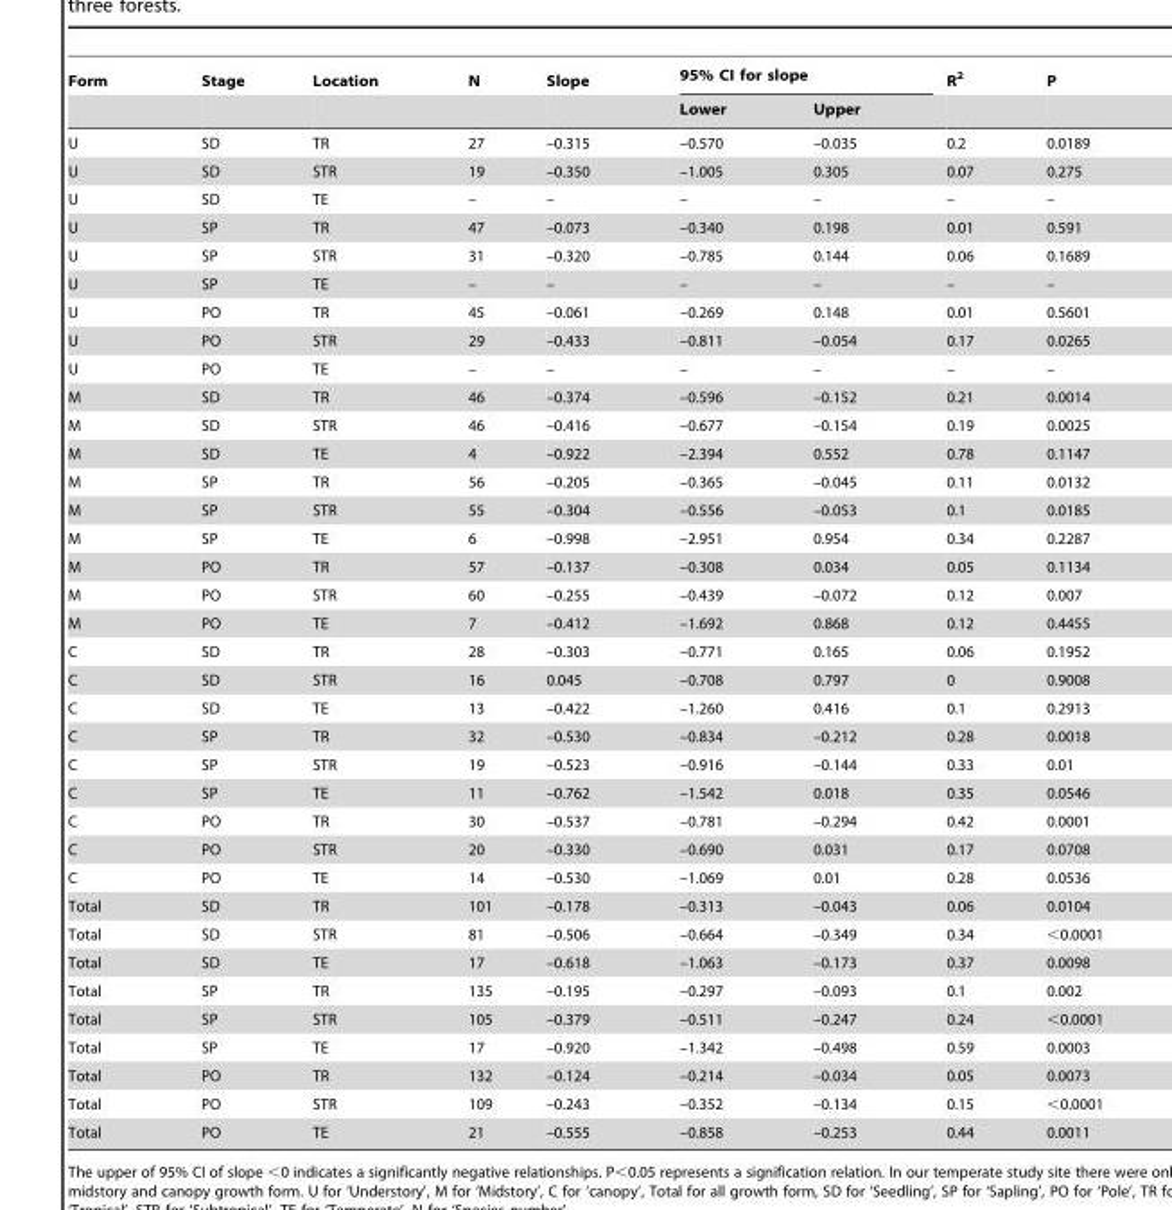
<table><thead><tr><td rowspan="2">Form</td><td rowspan="2">Stage</td><td rowspan="2">Location</td><td rowspan="2">N</td><td rowspan="2">Slope</td><td colspan="2">95% CI for slope</td><td rowspan="2">R<sup>2</sup></td><td rowspan="2">P</td></tr><tr><td>Lower</td><td>Upper</td></tr></thead><tbody><tr><td>U</td><td>SD</td><td>TR</td><td>27</td><td>–0.315</td><td>–0.570</td><td>–0.035</td><td>0.2</td><td>0.0189</td></tr><tr><td>U</td><td>SD</td><td>STR</td><td>19</td><td>–0.350</td><td>–1.005</td><td>0.305</td><td>0.07</td><td>0.275</td></tr><tr><td>U</td><td>SD</td><td>TE</td><td>–</td><td>–</td><td>–</td><td>–</td><td>–</td><td>–</td></tr><tr><td>U</td><td>SP</td><td>TR</td><td>47</td><td>–0.073</td><td>–0.340</td><td>0.198</td><td>0.01</td><td>0.591</td></tr><tr><td>U</td><td>SP</td><td>STR</td><td>31</td><td>–0.320</td><td>–0.785</td><td>0.144</td><td>0.06</td><td>0.1689</td></tr><tr><td>U</td><td>SP</td><td>TE</td><td>–</td><td>–</td><td>–</td><td>–</td><td>–</td><td>–</td></tr><tr><td>U</td><td>PO</td><td>TR</td><td>45</td><td>–0.061</td><td>–0.269</td><td>0.148</td><td>0.01</td><td>0.5601</td></tr><tr><td>U</td><td>PO</td><td>STR</td><td>29</td><td>–0.433</td><td>–0.811</td><td>–0.054</td><td>0.17</td><td>0.0265</td></tr><tr><td>U</td><td>PO</td><td>TE</td><td>–</td><td>–</td><td>–</td><td>–</td><td>–</td><td>–</td></tr><tr><td>M</td><td>SD</td><td>TR</td><td>46</td><td>–0.374</td><td>–0.596</td><td>–0.152</td><td>0.21</td><td>0.0014</td></tr><tr><td>M</td><td>SD</td><td>STR</td><td>46</td><td>–0.416</td><td>–0.677</td><td>–0.154</td><td>0.19</td><td>0.0025</td></tr><tr><td>M</td><td>SD</td><td>TE</td><td>4</td><td>–0.922</td><td>–2.394</td><td>0.552</td><td>0.78</td><td>0.1147</td></tr><tr><td>M</td><td>SP</td><td>TR</td><td>56</td><td>–0.205</td><td>–0.365</td><td>–0.045</td><td>0.11</td><td>0.0132</td></tr><tr><td>M</td><td>SP</td><td>STR</td><td>55</td><td>–0.304</td><td>–0.556</td><td>–0.053</td><td>0.1</td><td>0.0185</td></tr><tr><td>M</td><td>SP</td><td>TE</td><td>6</td><td>–0.998</td><td>–2.951</td><td>0.954</td><td>0.34</td><td>0.2287</td></tr><tr><td>M</td><td>PO</td><td>TR</td><td>57</td><td>–0.137</td><td>–0.308</td><td>0.034</td><td>0.05</td><td>0.1134</td></tr><tr><td>M</td><td>PO</td><td>STR</td><td>60</td><td>–0.255</td><td>–0.439</td><td>–0.072</td><td>0.12</td><td>0.007</td></tr><tr><td>M</td><td>PO</td><td>TE</td><td>7</td><td>–0.412</td><td>–1.692</td><td>0.868</td><td>0.12</td><td>0.4455</td></tr><tr><td>C</td><td>SD</td><td>TR</td><td>28</td><td>–0.303</td><td>–0.771</td><td>0.165</td><td>0.06</td><td>0.1952</td></tr><tr><td>C</td><td>SD</td><td>STR</td><td>16</td><td>0.045</td><td>–0.708</td><td>0.797</td><td>0</td><td>0.9008</td></tr><tr><td>C</td><td>SD</td><td>TE</td><td>13</td><td>–0.422</td><td>–1.260</td><td>0.416</td><td>0.1</td><td>0.2913</td></tr><tr><td>C</td><td>SP</td><td>TR</td><td>32</td><td>–0.530</td><td>–0.834</td><td>–0.212</td><td>0.28</td><td>0.0018</td></tr><tr><td>C</td><td>SP</td><td>STR</td><td>19</td><td>–0.523</td><td>–0.916</td><td>–0.144</td><td>0.33</td><td>0.01</td></tr><tr><td>C</td><td>SP</td><td>TE</td><td>11</td><td>–0.762</td><td>–1.542</td><td>0.018</td><td>0.35</td><td>0.0546</td></tr><tr><td>C</td><td>PO</td><td>TR</td><td>30</td><td>–0.537</td><td>–0.781</td><td>–0.294</td><td>0.42</td><td>0.0001</td></tr><tr><td>C</td><td>PO</td><td>STR</td><td>20</td><td>–0.330</td><td>–0.690</td><td>0.031</td><td>0.17</td><td>0.0708</td></tr><tr><td>C</td><td>PO</td><td>TE</td><td>14</td><td>–0.530</td><td>–1.069</td><td>0.01</td><td>0.28</td><td>0.0536</td></tr><tr><td>Total</td><td>SD</td><td>TR</td><td>101</td><td>–0.178</td><td>–0.313</td><td>–0.043</td><td>0.06</td><td>0.0104</td></tr><tr><td>Total</td><td>SD</td><td>STR</td><td>81</td><td>–0.506</td><td>–0.664</td><td>–0.349</td><td>0.34</td><td>&lt;0.0001</td></tr><tr><td>Total</td><td>SD</td><td>TE</td><td>17</td><td>–0.618</td><td>–1.063</td><td>–0.173</td><td>0.37</td><td>0.0098</td></tr><tr><td>Total</td><td>SP</td><td>TR</td><td>135</td><td>–0.195</td><td>–0.297</td><td>–0.093</td><td>0.1</td><td>0.002</td></tr><tr><td>Total</td><td>SP</td><td>STR</td><td>105</td><td>–0.379</td><td>–0.511</td><td>–0.247</td><td>0.24</td><td>&lt;0.0001</td></tr><tr><td>Total</td><td>SP</td><td>TE</td><td>17</td><td>–0.920</td><td>–1.342</td><td>–0.498</td><td>0.59</td><td>0.0003</td></tr><tr><td>Total</td><td>PO</td><td>TR</td><td>132</td><td>–0.124</td><td>–0.214</td><td>–0.034</td><td>0.05</td><td>0.0073</td></tr><tr><td>Total</td><td>PO</td><td>STR</td><td>109</td><td>–0.243</td><td>–0.352</td><td>–0.134</td><td>0.15</td><td>&lt;0.0001</td></tr><tr><td>Total</td><td>PO</td><td>TE</td><td>21</td><td>–0.555</td><td>–0.858</td><td>–0.253</td><td>0.44</td><td>0.0011</td></tr></tbody></table>